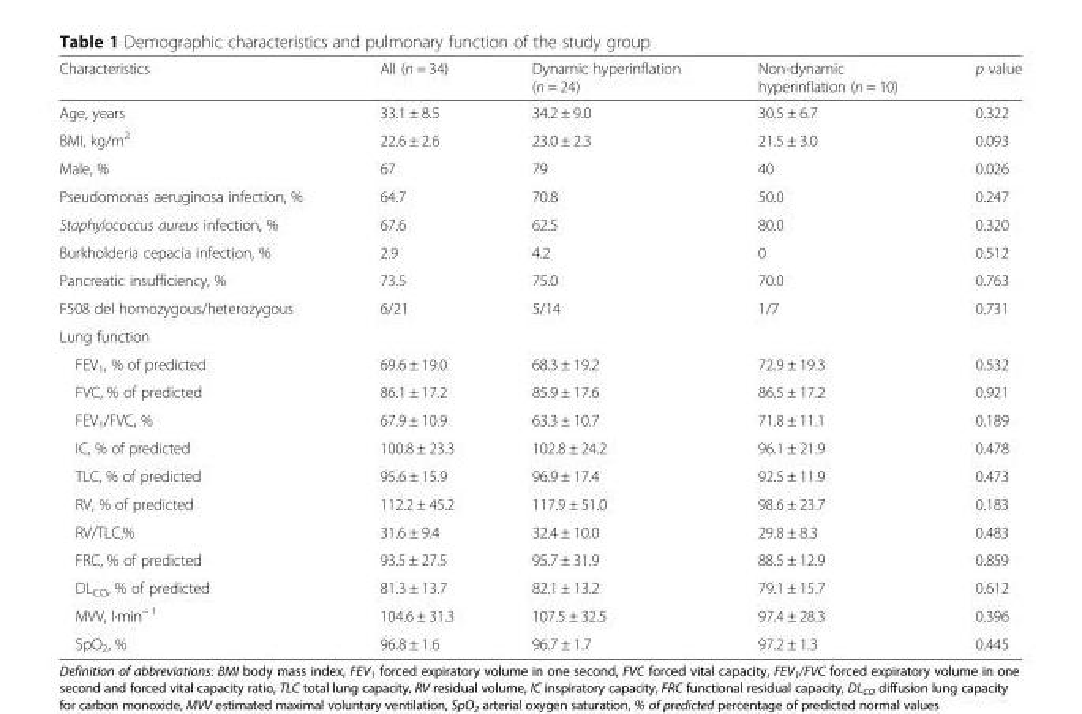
<table><thead><tr><td>Characteristics</td><td>All (n = 34)</td><td>Dynamic hyperinflation (n = 24)</td><td>Non-dynamic hyperinflation (n = 10)</td><td>p value</td></tr></thead><tbody><tr><td>Age, years</td><td>33.1 ± 8.5</td><td>34.2 ± 9.0</td><td>30.5 ± 6.7</td><td>0.322</td></tr><tr><td>BMI, kg/m<sup>2</sup></td><td>22.6 ± 2.6</td><td>23.0 ± 2.3</td><td>21.5 ± 3.0</td><td>0.093</td></tr><tr><td>Male, %</td><td>67</td><td>79</td><td>40</td><td>0.026</td></tr><tr><td>Pseudomonas aeruginosa infection, %</td><td>64.7</td><td>70.8</td><td>50.0</td><td>0.247</td></tr><tr><td>Staphylococcus aureus infection, %</td><td>67.6</td><td>62.5</td><td>80.0</td><td>0.320</td></tr><tr><td>Burkholderia cepacia infection, %</td><td>2.9</td><td>4.2</td><td>0</td><td>0.512</td></tr><tr><td>Pancreatic insufficiency, %</td><td>73.5</td><td>75.0</td><td>70.0</td><td>0.763</td></tr><tr><td>F508 del homozygous/heterozygous</td><td>6/21</td><td>5/14</td><td>1/7</td><td>0.731</td></tr><tr><td colspan="5">Lung function</td></tr><tr><td>FEV<sub>1</sub>, % of predicted</td><td>69.6 ± 19.0</td><td>68.3 ± 19.2</td><td>72.9 ± 19.3</td><td>0.532</td></tr><tr><td>FVC, % of predicted</td><td>86.1 ± 17.2</td><td>85.9 ± 17.6</td><td>86.5 ± 17.2</td><td>0.921</td></tr><tr><td>FEV<sub>1</sub>/FVC, %</td><td>67.9 ± 10.9</td><td>63.3 ± 10.7</td><td>71.8 ± 11.1</td><td>0.189</td></tr><tr><td>IC, % of predicted</td><td>100.8 ± 23.3</td><td>102.8 ± 24.2</td><td>96.1 ± 21.9</td><td>0.478</td></tr><tr><td>TLC, % of predicted</td><td>95.6 ± 15.9</td><td>96.9 ± 17.4</td><td>92.5 ± 11.9</td><td>0.473</td></tr><tr><td>RV, % of predicted</td><td>112.2 ± 45.2</td><td>117.9 ± 51.0</td><td>98.6 ± 23.7</td><td>0.183</td></tr><tr><td>RV/TLC,%</td><td>31.6 ± 9.4</td><td>32.4 ± 10.0</td><td>29.8 ± 8.3</td><td>0.483</td></tr><tr><td>FRC, % of predicted</td><td>93.5 ± 27.5</td><td>95.7 ± 31.9</td><td>88.5 ± 12.9</td><td>0.859</td></tr><tr><td>DL<sub>CO</sub>, % of predicted</td><td>81.3 ± 13.7</td><td>82.1 ± 13.2</td><td>79.1 ± 15.7</td><td>0.612</td></tr><tr><td>MVV, l·min<sup>− 1</sup></td><td>104.6 ± 31.3</td><td>107.5 ± 32.5</td><td>97.4 ± 28.3</td><td>0.396</td></tr><tr><td>SpO<sub>2</sub>, %</td><td>96.8 ± 1.6</td><td>96.7 ± 1.7</td><td>97.2 ± 1.3</td><td>0.445</td></tr></tbody></table>